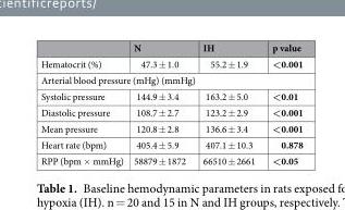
<table><thead><tr><td></td><td>N</td><td>IH</td><td>p value</td></tr></thead><tbody><tr><td>Hematocrit (%)</td><td>47.3 ± 1.0</td><td>55.2 ± 1.9</td><td>&lt;0.001</td></tr><tr><td colspan="4">Arterial blood pressure (mHg) (mmHg)</td></tr><tr><td>Systolic pressure</td><td>144.9 ± 3.4</td><td>163.2 ± 5.0</td><td>&lt;0.01</td></tr><tr><td>Diastolic pressure</td><td>108.7 ± 2.7</td><td>123.2 ± 2.9</td><td>&lt;0.001</td></tr><tr><td>Mean pressure</td><td>120.8 ± 2.8</td><td>136.6 ± 3.4</td><td>&lt;0.001</td></tr><tr><td>Heart rate (bpm)</td><td>405.4 ± 5.9</td><td>407.1 ± 10.3</td><td>0.878</td></tr><tr><td>RPP (bpm × mmHg)</td><td>58879 ± 1872</td><td>66510 ± 2661</td><td>&lt;0.05</td></tr></tbody></table>